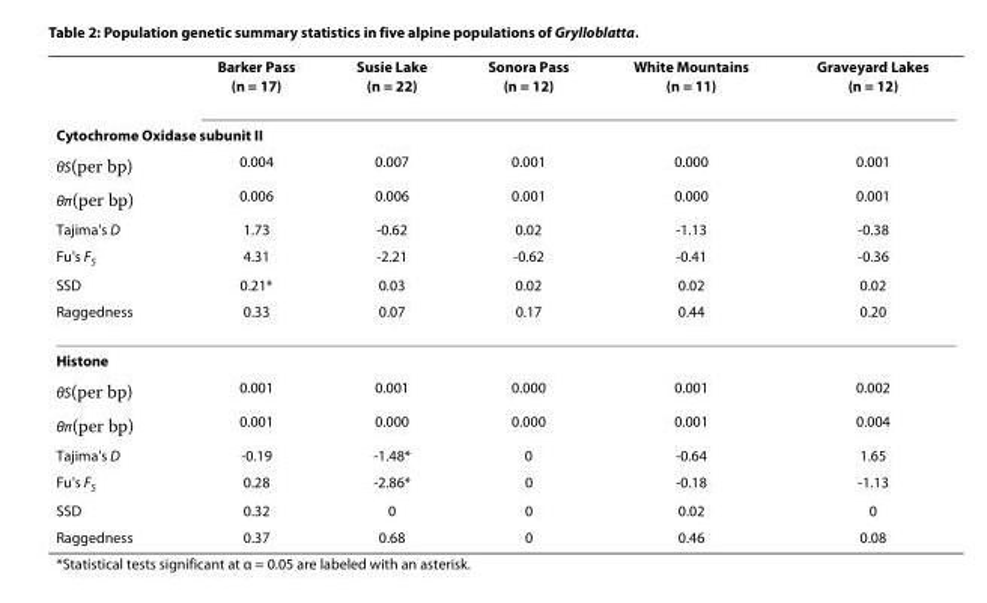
<table><thead><tr><td></td><td>Barker Pass (n = 17)</td><td>Susie Lake (n = 22)</td><td>Sonora Pass (n = 12)</td><td>White Mountains (n = 11)</td><td>Graveyard Lakes (n = 12)</td></tr><tr><td colspan="6">Cytochrome Oxidase subunit II</td></tr><tr><td rowspan="6">θS(per bp) θπ(per bp) Tajima&#x27;s D Fu&#x27;s FS SSD Raggedness</td><td rowspan="6">0.004 0.006 1.73 4.31 0.21* 0.33</td><td rowspan="6">0.007 0.006 -0.62 -2.21 0.03 0.07</td><td rowspan="6">0.001 0.001 0.02 -0.62 0.02 0.17</td><td rowspan="6">0.000 0.000 -1.13 -0.41 0.02 0.44</td><td rowspan="6">0.001 0.001 -0.38 -0.36 0.02 0.20</td></tr><tr></tr><tr></tr><tr></tr><tr></tr><tr></tr></thead><tbody><tr><td colspan="6">Histone</td></tr><tr><td>θ<sub>S</sub>(per bp)</td><td>0.001</td><td>0.001</td><td>0.000</td><td>0.001</td><td>0.002</td></tr><tr><td>θ<sub>π</sub>(per bp)</td><td>0.001</td><td>0.000</td><td>0.000</td><td>0.001</td><td>0.004</td></tr><tr><td>Tajima&#x27;s D</td><td>-0.19</td><td>-1.48*</td><td>0</td><td>-0.64</td><td>1.65</td></tr><tr><td>Fu&#x27;s F<sub>S</sub></td><td>0.28</td><td>-2.86*</td><td>0</td><td>-0.18</td><td>-1.13</td></tr><tr><td>SSD</td><td>0.32</td><td>0</td><td>0</td><td>0.02</td><td>0</td></tr><tr><td>Raggedness</td><td>0.37</td><td>0.68</td><td>0</td><td>0.46</td><td>0.08</td></tr></tbody></table>